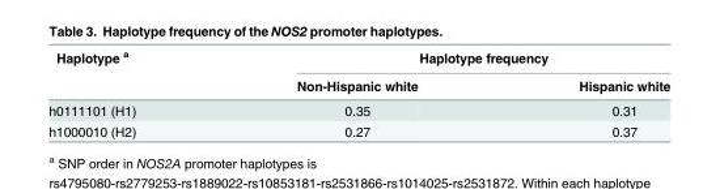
<table><thead><tr><td rowspan="2">Haplotype <sup>a</sup></td><td colspan="2">Haplotype frequency</td></tr><tr><td>Non-Hispanic white</td><td>Hispanic white</td></tr></thead><tbody><tr><td>h0111101 (H1)</td><td>0.35</td><td>0.31</td></tr><tr><td>h1000010 (H2)</td><td>0.27</td><td>0.37</td></tr></tbody></table>